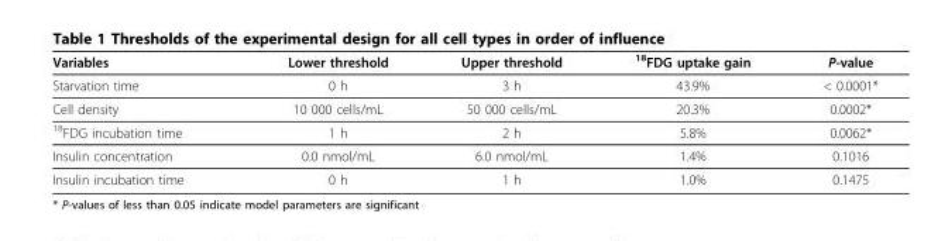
<table><thead><tr><td>Variables</td><td>Lower threshold</td><td>Upper threshold</td><td><sup>18</sup>FDG uptake gain</td><td>P-value</td></tr></thead><tbody><tr><td>Starvation time</td><td>0 h</td><td>3 h</td><td>43.9%</td><td>&lt; 0.0001*</td></tr><tr><td>Cell density</td><td>10 000 cells/mL</td><td>50 000 cells/mL</td><td>20.3%</td><td>0.0002*</td></tr><tr><td><sup>18</sup>FDG incubation time</td><td>1 h</td><td>2 h</td><td>5.8%</td><td>0.0062*</td></tr><tr><td>Insulin concentration</td><td>0.0 nmol/mL</td><td>6.0 nmol/mL</td><td>1.4%</td><td>0.1016</td></tr><tr><td>Insulin incubation time</td><td>0 h</td><td>1 h</td><td>1.0%</td><td>0.1475</td></tr></tbody></table>